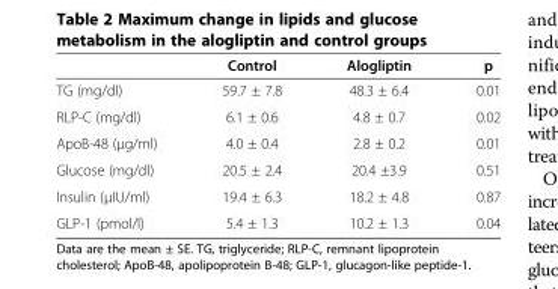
<table><thead><tr><td></td><td>Control</td><td>Alogliptin</td><td>p</td></tr></thead><tbody><tr><td>TG (mg/dl)</td><td>59.7 ± 7.8</td><td>48.3 ± 6.4</td><td>0.01</td></tr><tr><td>RLP-C (mg/dl)</td><td>6.1 ± 0.6</td><td>4.8 ± 0.7</td><td>0.02</td></tr><tr><td>ApoB-48 (μg/ml)</td><td>4.0 ± 0.4</td><td>2.8 ± 0.2</td><td>0.01</td></tr><tr><td>Glucose (mg/dl)</td><td>20.5 ± 2.4</td><td>20.4 ±3.9</td><td>0.51</td></tr><tr><td>Insulin (μIU/ml)</td><td>19.4 ± 6.3</td><td>18.2 ± 4.8</td><td>0.87</td></tr><tr><td>GLP-1 (pmol/l)</td><td>5.4 ± 1.3</td><td>10.2 ± 1.3</td><td>0.04</td></tr></tbody></table>